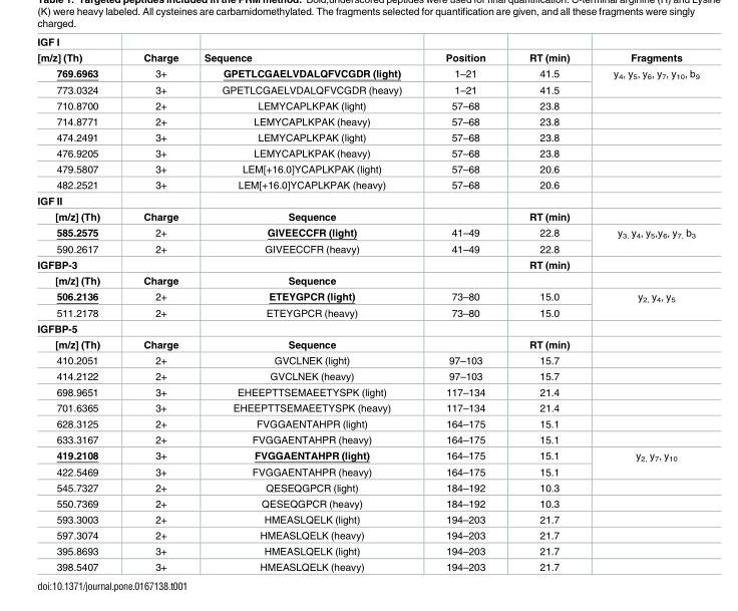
<table><tbody><tr><td colspan="6">IGF I</td></tr><tr><td>[m/z] (Th)</td><td>Charge</td><td>Sequence</td><td>Position</td><td>RT (min)</td><td>Fragments</td></tr><tr><td>769.6963</td><td>3+</td><td>GPETLCGAELVDALQFVCGDR (light)</td><td>1–21</td><td>41.5</td><td rowspan="2">y<sub>4</sub>, y<sub>5</sub>, y<sub>6</sub>, y<sub>7</sub>, y<sub>10</sub>, b<sub>9</sub></td></tr><tr><td>773.0324</td><td>3+</td><td>GPETLCGAELVDALQFVCGDR (heavy)</td><td>1–21</td><td>41.5</td></tr><tr><td>710.8700</td><td>2+</td><td>LEMYCAPLKPAK (light)</td><td>57–68</td><td>23.8</td><td></td></tr><tr><td>714.8771</td><td>2+</td><td>LEMYCAPLKPAK (heavy)</td><td>57–68</td><td>23.8</td><td></td></tr><tr><td>474.2491</td><td>3+</td><td>LEMYCAPLKPAK (light)</td><td>57–68</td><td>23.8</td><td></td></tr><tr><td>476.9205</td><td>3+</td><td>LEMYCAPLKPAK (heavy)</td><td>57–68</td><td>23.8</td><td></td></tr><tr><td>479.5807</td><td>3+</td><td>LEM[+16.0]YCAPLKPAK (light)</td><td>57–68</td><td>20.6</td><td></td></tr><tr><td>482.2521</td><td>3+</td><td>LEM[+16.0]YCAPLKPAK (heavy)</td><td>57–68</td><td>20.6</td><td></td></tr><tr><td colspan="6">IGF II</td></tr><tr><td>[m/z] (Th)</td><td>Charge</td><td>Sequence</td><td></td><td>RT (min)</td><td></td></tr><tr><td>585.2575</td><td>2+</td><td>GIVEECCFR (light)</td><td>41–49</td><td>22.8</td><td rowspan="2">y<sub>3,</sub> y<sub>4</sub>, y<sub>5</sub>,y<sub>6</sub>, y<sub>7,</sub> b<sub>3</sub></td></tr><tr><td>590.2617</td><td>2+</td><td>GIVEECCFR (heavy)</td><td>41–49</td><td>22.8</td></tr><tr><td>IGFBP-3</td><td></td><td></td><td></td><td>RT (min)</td><td></td></tr><tr><td>[m/z] (Th)</td><td>Charge</td><td>Sequence</td><td></td><td></td><td></td></tr><tr><td>506.2136</td><td>2+</td><td>ETEYGPCR (light)</td><td>73–80</td><td>15.0</td><td rowspan="2">y<sub>2,</sub> y<sub>4</sub>, y<sub>5</sub></td></tr><tr><td>511.2178</td><td>2+</td><td>ETEYGPCR (heavy)</td><td>73–80</td><td>15.0</td></tr><tr><td colspan="6">IGFBP-5</td></tr><tr><td>[m/z] (Th)</td><td>Charge</td><td>Sequence</td><td></td><td>RT (min)</td><td></td></tr><tr><td>410.2051</td><td>2+</td><td>GVCLNEK (light)</td><td>97–103</td><td>15.7</td><td></td></tr><tr><td>414.2122</td><td>2+</td><td>GVCLNEK (heavy)</td><td>97–103</td><td>15.7</td><td></td></tr><tr><td>698.9651</td><td>3+</td><td>EHEEPTTSEMAEETYSPK (light)</td><td>117–134</td><td>21.4</td><td></td></tr><tr><td>701.6365</td><td>3+</td><td>EHEEPTTSEMAEETYSPK (heavy)</td><td>117–134</td><td>21.4</td><td></td></tr><tr><td>628.3125</td><td>2+</td><td>FVGGAENTAHPR (light)</td><td>164–175</td><td>15.1</td><td></td></tr><tr><td>633.3167</td><td>2+</td><td>FVGGAENTAHPR (heavy)</td><td>164–175</td><td>15.1</td><td></td></tr><tr><td>419.2108</td><td>3+</td><td>FVGGAENTAHPR (light)</td><td>164–175</td><td>15.1</td><td rowspan="2">y<sub>2,</sub> y<sub>7</sub>, y<sub>10</sub></td></tr><tr><td>422.5469</td><td>3+</td><td>FVGGAENTAHPR (heavy)</td><td>164–175</td><td>15.1</td></tr><tr><td>545.7327</td><td>2+</td><td>QESEQGPCR (light)</td><td>184–192</td><td>10.3</td><td></td></tr><tr><td>550.7369</td><td>2+</td><td>QESEQGPCR (heavy)</td><td>184–192</td><td>10.3</td><td></td></tr><tr><td>593.3003</td><td>2+</td><td>HMEASLQELK (light)</td><td>194–203</td><td>21.7</td><td></td></tr><tr><td>597.3074</td><td>2+</td><td>HMEASLQELK (heavy)</td><td>194–203</td><td>21.7</td><td></td></tr><tr><td>395.8693</td><td>3+</td><td>HMEASLQELK (light)</td><td>194–203</td><td>21.7</td><td></td></tr><tr><td>398.5407</td><td>3+</td><td>HMEASLQELK (heavy)</td><td>194–203</td><td>21.7</td><td></td></tr></tbody></table>